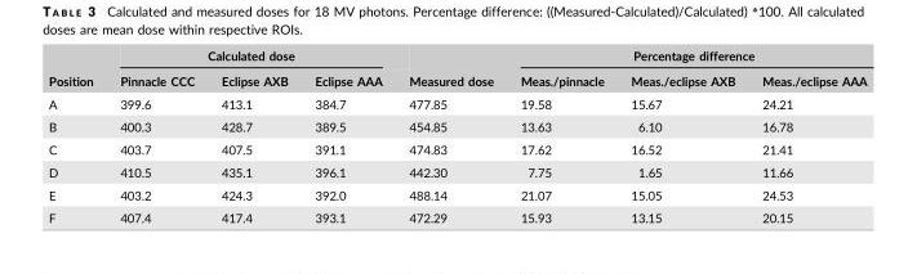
<table><thead><tr><td rowspan="2">Position</td><td colspan="3">Calculated dose</td><td rowspan="2">Measured dose</td><td colspan="3">Percentage difference</td></tr><tr><td>Pinnacle CCC</td><td>Eclipse AXB</td><td>Eclipse AAA</td><td>Meas./pinnacle</td><td>Meas./eclipse AXB</td><td>Meas./eclipse AAA</td></tr></thead><tbody><tr><td>A</td><td>399.6</td><td>413.1</td><td>384.7</td><td>477.85</td><td>19.58</td><td>15.67</td><td>24.21</td></tr><tr><td>B</td><td>400.3</td><td>428.7</td><td>389.5</td><td>454.85</td><td>13.63</td><td>6.10</td><td>16.78</td></tr><tr><td>C</td><td>403.7</td><td>407.5</td><td>391.1</td><td>474.83</td><td>17.62</td><td>16.52</td><td>21.41</td></tr><tr><td>D</td><td>410.5</td><td>435.1</td><td>396.1</td><td>442.30</td><td>7.75</td><td>1.65</td><td>11.66</td></tr><tr><td>E</td><td>403.2</td><td>424.3</td><td>392.0</td><td>488.14</td><td>21.07</td><td>15.05</td><td>24.53</td></tr><tr><td>F</td><td>407.4</td><td>417.4</td><td>393.1</td><td>472.29</td><td>15.93</td><td>13.15</td><td>20.15</td></tr></tbody></table>